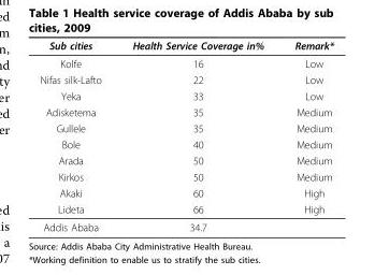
<table><thead><tr><td>Sub cities</td><td>Health Service Coverage in%</td><td>Remark*</td></tr></thead><tbody><tr><td>Kolfe</td><td>16</td><td>Low</td></tr><tr><td>Nifas silk-Lafto</td><td>22</td><td>Low</td></tr><tr><td>Yeka</td><td>33</td><td>Low</td></tr><tr><td>Adisketema</td><td>35</td><td>Medium</td></tr><tr><td>Gullele</td><td>35</td><td>Medium</td></tr><tr><td>Bole</td><td>40</td><td>Medium</td></tr><tr><td>Arada</td><td>50</td><td>Medium</td></tr><tr><td>Kirkos</td><td>50</td><td>Medium</td></tr><tr><td>Akaki</td><td>60</td><td>High</td></tr><tr><td>Lideta</td><td>66</td><td>High</td></tr><tr><td>Addis Ababa</td><td>34.7</td><td></td></tr></tbody></table>